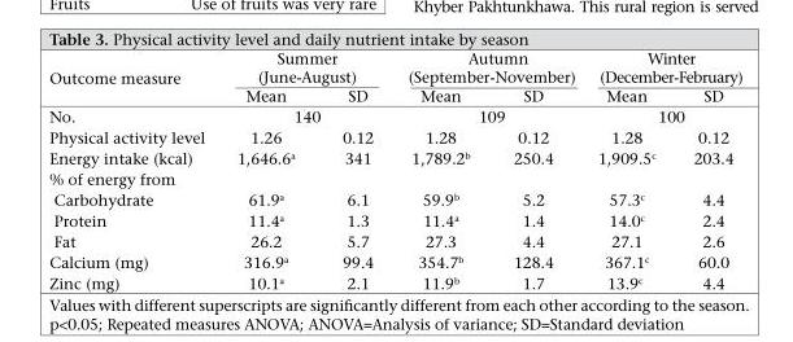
<table><thead><tr><td rowspan="2">Outcome measure</td><td colspan="2">Summer (June-August)</td><td colspan="2">Autumn (September-November)</td><td colspan="2">Winter (December-February)</td></tr><tr><td>Mean</td><td>SD</td><td>Mean</td><td>SD</td><td>Mean</td><td>SD</td></tr></thead><tbody><tr><td>No.</td><td colspan="2">140</td><td colspan="2">109</td><td colspan="2">100</td></tr><tr><td>Physical activity level</td><td>1.26</td><td>0.12</td><td>1.28</td><td>0.12</td><td>1.28</td><td>0.12</td></tr><tr><td>Energy intake (kcal)</td><td>1,646.6<sup>a</sup></td><td>341</td><td>1,789.2<sup>b</sup></td><td>250.4</td><td>1,909.5<sup>c</sup></td><td>203.4</td></tr><tr><td>% of energy from Carbohydrate</td><td>61.9<sup>a</sup></td><td>6.1</td><td>59.9<sup>b</sup></td><td>5.2</td><td>57.3<sup>c</sup></td><td>4.4</td></tr><tr><td>Protein</td><td>11.4<sup>a</sup></td><td>1.3</td><td>11.4<sup>a</sup></td><td>1.4</td><td>14.0<sup>c</sup></td><td>2.4</td></tr><tr><td>Fat</td><td>26.2</td><td>5.7</td><td>27.3</td><td>4.4</td><td>27.1</td><td>2.6</td></tr><tr><td>Calcium (mg)</td><td>316.9<sup>a</sup></td><td>99.4</td><td>354.7<sup>b</sup></td><td>128.4</td><td>367.1<sup>c</sup></td><td>60.0</td></tr><tr><td>Zinc (mg)</td><td>10.1<sup>a</sup></td><td>2.1</td><td>11.9<sup>b</sup></td><td>1.7</td><td>13.9<sup>c</sup></td><td>4.4</td></tr></tbody></table>